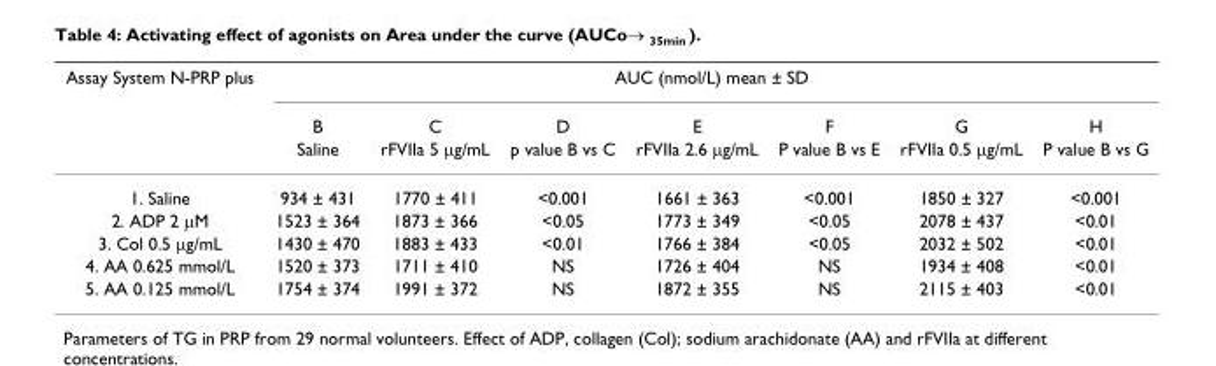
<table><thead><tr><td rowspan="3">Assay System N-PRP plus</td><td colspan="7">AUC (nmol/L) mean ± SD</td></tr><tr><td rowspan="2">B Saline</td><td rowspan="2">C rFVIIa 5 µg/mL</td><td rowspan="2">D p value B vs C</td><td rowspan="2">E rFVIIa 2.6 µg/mL</td><td rowspan="2">F P value B vs E</td><td rowspan="2">G rFVIIa 0.5 µg/mL</td><td rowspan="2">H P value B vs G</td></tr><tr></tr></thead><tbody><tr><td>1. Saline</td><td>934 ± 431</td><td>1770 ± 411</td><td>&lt;0.001</td><td>1661 ± 363</td><td>&lt;0.001</td><td>1850 ± 327</td><td>&lt;0.001</td></tr><tr><td>2. ADP 2 µM</td><td>1523 ± 364</td><td>1873 ± 366</td><td>&lt;0.05</td><td>1773 ± 349</td><td>&lt;0.05</td><td>2078 ± 437</td><td>&lt;0.01</td></tr><tr><td>3. Col 0.5 µg/mL</td><td>1430 ± 470</td><td>1883 ± 433</td><td>&lt;0.01</td><td>1766 ± 384</td><td>&lt;0.05</td><td>2032 ± 502</td><td>&lt;0.01</td></tr><tr><td>4. AA 0.625 mmol/L</td><td>1520 ± 373</td><td>1711 ± 410</td><td>NS</td><td>1726 ± 404</td><td>NS</td><td>1934 ± 408</td><td>&lt;0.01</td></tr><tr><td>5. AA 0.125 mmol/L</td><td>1754 ± 374</td><td>1991 ± 372</td><td>NS</td><td>1872 ± 355</td><td>NS</td><td>2115 ± 403</td><td>&lt;0.01</td></tr></tbody></table>